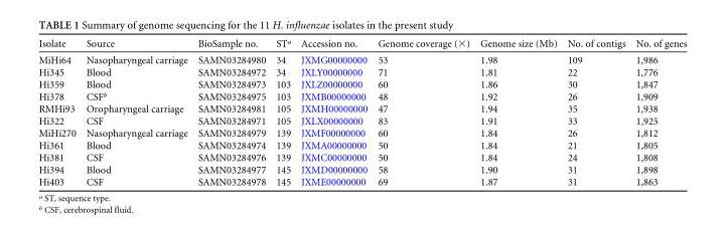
<table><thead><tr><td>Isolate</td><td>Source</td><td>BioSample no.</td><td>ST<sup>a</sup></td><td>Accession no.</td><td>Genome coverage (×)</td><td>Genome size (Mb)</td><td>No. of contigs</td><td>No. of genes</td></tr></thead><tbody><tr><td>MiHi64</td><td>Nasopharyngeal carriage</td><td>SAMN03284980</td><td>34</td><td>JXMG00000000</td><td>53</td><td>1.98</td><td>109</td><td>1,986</td></tr><tr><td>Hi345</td><td>Blood</td><td>SAMN03284972</td><td>34</td><td>JXLY00000000</td><td>71</td><td>1.81</td><td>22</td><td>1,776</td></tr><tr><td>Hi359</td><td>Blood</td><td>SAMN03284973</td><td>103</td><td>JXLZ00000000</td><td>60</td><td>1.86</td><td>30</td><td>1,847</td></tr><tr><td>Hi378</td><td>CSF<sup>b</sup></td><td>SAMN03284975</td><td>103</td><td>JXMB00000000</td><td>48</td><td>1.92</td><td>26</td><td>1,909</td></tr><tr><td>RMHi93</td><td>Oropharyngeal carriage</td><td>SAMN03284981</td><td>105</td><td>JXMH00000000</td><td>47</td><td>1.94</td><td>35</td><td>1,938</td></tr><tr><td>Hi322</td><td>CSF</td><td>SAMN03284971</td><td>105</td><td>JXLX00000000</td><td>83</td><td>1.91</td><td>33</td><td>1,925</td></tr><tr><td>MiHi270</td><td>Nasopharyngeal carriage</td><td>SAMN03284979</td><td>139</td><td>JXMF00000000</td><td>60</td><td>1.84</td><td>26</td><td>1,812</td></tr><tr><td>Hi361</td><td>Blood</td><td>SAMN03284974</td><td>139</td><td>JXMA00000000</td><td>50</td><td>1.84</td><td>21</td><td>1,805</td></tr><tr><td>Hi381</td><td>CSF</td><td>SAMN03284976</td><td>139</td><td>JXMC00000000</td><td>50</td><td>1.84</td><td>24</td><td>1,808</td></tr><tr><td>Hi394</td><td>Blood</td><td>SAMN03284977</td><td>145</td><td>JXMD00000000</td><td>58</td><td>1.90</td><td>31</td><td>1,898</td></tr><tr><td>Hi403</td><td>CSF</td><td>SAMN03284978</td><td>145</td><td>JXME00000000</td><td>69</td><td>1.87</td><td>31</td><td>1,863</td></tr></tbody></table>